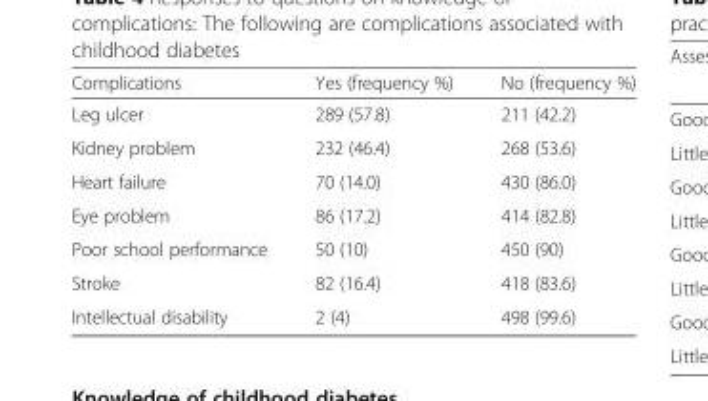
<table><thead><tr><td>Complications</td><td>Yes (frequency %)</td><td>No (frequency %)</td></tr></thead><tbody><tr><td>Leg ulcer</td><td>289 (57.8)</td><td>211 (42.2)</td></tr><tr><td>Kidney problem</td><td>232 (46.4)</td><td>268 (53.6)</td></tr><tr><td>Heart failure</td><td>70 (14.0)</td><td>430 (86.0)</td></tr><tr><td>Eye problem</td><td>86 (17.2)</td><td>414 (82.8)</td></tr><tr><td>Poor school performance</td><td>50 (10)</td><td>450 (90)</td></tr><tr><td>Stroke</td><td>82 (16.4)</td><td>418 (83.6)</td></tr><tr><td>Intellectual disability</td><td>2 (4)</td><td>498 (99.6)</td></tr></tbody></table>